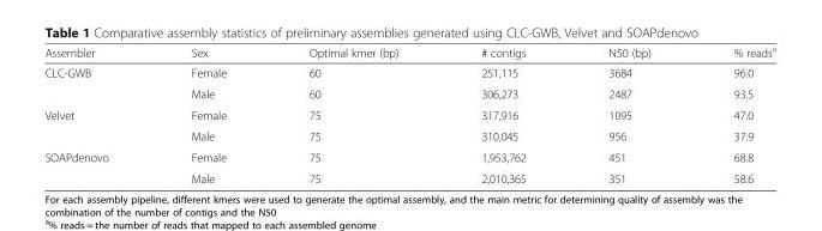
<table><thead><tr><td>Assembler</td><td>Sex</td><td>Optimal kmer (bp)</td><td># contigs</td><td>N50 (bp)</td><td>% reads<sup>a</sup></td></tr></thead><tbody><tr><td rowspan="2">CLC-GWB</td><td>Female</td><td>60</td><td>251,115</td><td>3684</td><td>96.0</td></tr><tr><td>Male</td><td>60</td><td>306,273</td><td>2487</td><td>93.5</td></tr><tr><td rowspan="2">Velvet</td><td>Female</td><td>75</td><td>317,916</td><td>1095</td><td>47.0</td></tr><tr><td>Male</td><td>75</td><td>310,045</td><td>956</td><td>37.9</td></tr><tr><td rowspan="2">SOAPdenovo</td><td>Female</td><td>75</td><td>1,953,762</td><td>451</td><td>68.8</td></tr><tr><td>Male</td><td>75</td><td>2,010,365</td><td>351</td><td>58.6</td></tr></tbody></table>